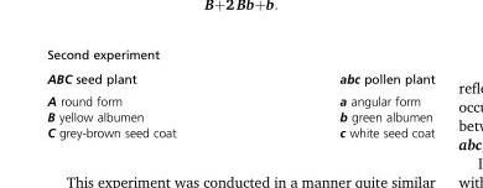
<table><thead><tr><td colspan="2">Second experiment</td></tr><tr><td>ABC seed plant</td><td>abc pollen plant</td></tr></thead><tbody><tr><td>A round form</td><td>a angular form</td></tr><tr><td>B yellow albumen</td><td>b green albumen</td></tr><tr><td>C grey-brown seed coat</td><td>c white seed coat</td></tr></tbody></table>